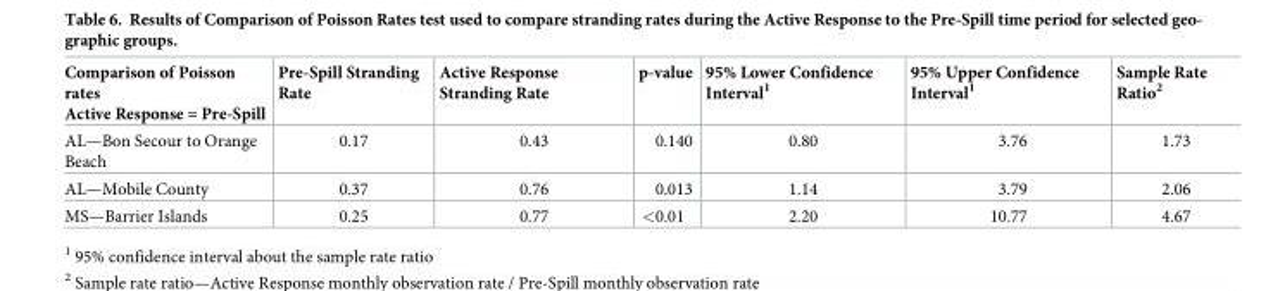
<table><thead><tr><td>Comparison of Poisson rates Active Response = Pre-Spill</td><td>Pre-Spill Stranding Rate</td><td>Active Response Stranding Rate</td><td>p-value</td><td>95% Lower Confidence Interval<sup>1</sup></td><td>95% Upper Confidence Interval<sup>1</sup></td><td>Sample Rate Ratio<sup>2</sup></td></tr></thead><tbody><tr><td>AL—Bon Secour to Orange Beach</td><td>0.17</td><td>0.43</td><td>0.140</td><td>0.80</td><td>3.76</td><td>1.73</td></tr><tr><td>AL—Mobile County</td><td>0.37</td><td>0.76</td><td>0.013</td><td>1.14</td><td>3.79</td><td>2.06</td></tr><tr><td>MS—Barrier Islands</td><td>0.25</td><td>0.77</td><td>&lt;0.01</td><td>2.20</td><td>10.77</td><td>4.67</td></tr></tbody></table>